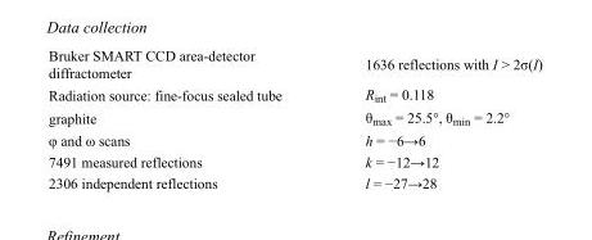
<table><tbody><tr><td>Bruker SMART CCD area-detector diffractometer</td><td>1636 reflections with I &gt; 2σ(I)</td></tr><tr><td>Radiation source: fine-focus sealed tube</td><td>R<sub>int</sub> = 0.118</td></tr><tr><td>graphite</td><td>θ<sub>max</sub> = 25.5°, θ<sub>min</sub> = 2.2°</td></tr><tr><td>φ and ω scans</td><td>h = −6→6</td></tr><tr><td>7491 measured reflections</td><td>k = −12→12</td></tr><tr><td>2306 independent reflections</td><td>l = −27→28</td></tr></tbody></table>